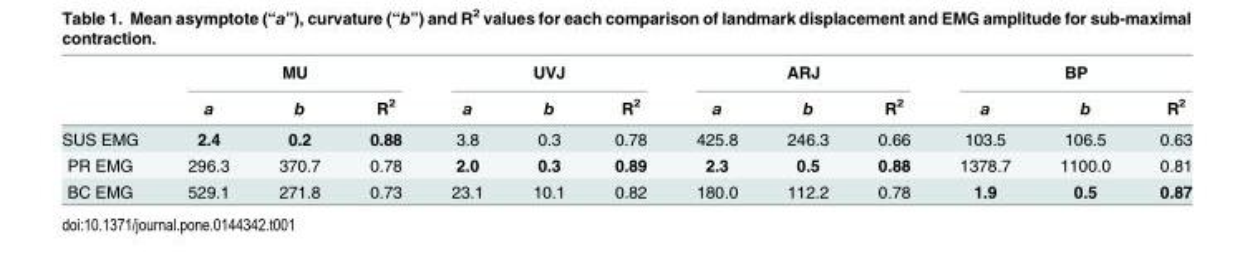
<table><thead><tr><td rowspan="2"></td><td colspan="3">MU</td><td colspan="3">UVJ</td><td colspan="3">ARJ</td><td colspan="3">BP</td></tr><tr><td>a</td><td>b</td><td>R<sup>2</sup></td><td>a</td><td>b</td><td>R<sup>2</sup></td><td>a</td><td>b</td><td>R<sup>2</sup></td><td>a</td><td>b</td><td>R<sup>2</sup></td></tr></thead><tbody><tr><td>SUS EMG</td><td>2.4</td><td>0.2</td><td>0.88</td><td>3.8</td><td>0.3</td><td>0.78</td><td>425.8</td><td>246.3</td><td>0.66</td><td>103.5</td><td>106.5</td><td>0.63</td></tr><tr><td>PR EMG</td><td>296.3</td><td>370.7</td><td>0.78</td><td>2.0</td><td>0.3</td><td>0.89</td><td>2.3</td><td>0.5</td><td>0.88</td><td>1378.7</td><td>1100.0</td><td>0.81</td></tr><tr><td>BC EMG</td><td>529.1</td><td>271.8</td><td>0.73</td><td>23.1</td><td>10.1</td><td>0.82</td><td>180.0</td><td>112.2</td><td>0.78</td><td>1.9</td><td>0.5</td><td>0.87</td></tr></tbody></table>